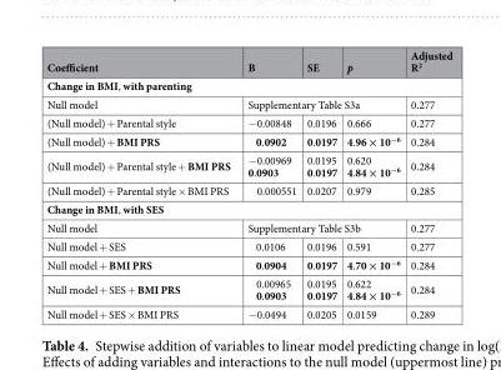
<table><thead><tr><td>Coefficient</td><td>B</td><td>SE</td><td>p</td><td>Adjusted R<sup>2</sup></td></tr></thead><tbody><tr><td colspan="5">Change in BMI, with parenting</td></tr><tr><td>Null model</td><td colspan="3">Supplementary Table S3a</td><td>0.277</td></tr><tr><td>(Null model) + Parental style</td><td>−0.00848</td><td>0.0196</td><td>0.666</td><td>0.277</td></tr><tr><td>(Null model) + BMI PRS</td><td>0.0902</td><td>0.0197</td><td>4.96 × 10<sup>−6</sup></td><td>0.284</td></tr><tr><td>(Null model) + Parental style + BMI PRS</td><td>−0.00969 0.0903</td><td>0.0195 0.0197</td><td>0.620 4.84 × 10<sup>−6</sup></td><td>0.284</td></tr><tr><td>(Null model) + Parental style × BMI PRS</td><td>0.000551</td><td>0.0207</td><td>0.979</td><td>0.285</td></tr><tr><td colspan="5">Change in BMI, with SES</td></tr><tr><td>Null model</td><td colspan="3">Supplementary Table S3b</td><td>0.277</td></tr><tr><td>Null model + SES</td><td>0.0106</td><td>0.0196</td><td>0.591</td><td>0.277</td></tr><tr><td>Null model + BMI PRS</td><td>0.0904</td><td>0.0197</td><td>4.70 × 10<sup>−6</sup></td><td>0.284</td></tr><tr><td>Null model + SES + BMI PRS</td><td>0.00965 0.0903</td><td>0.0195 0.0197</td><td>0.622 4.84 × 10<sup>−6</sup></td><td>0.284</td></tr><tr><td>Null model + SES × BMI PRS</td><td>−0.0494</td><td>0.0205</td><td>0.0159</td><td>0.289</td></tr></tbody></table>